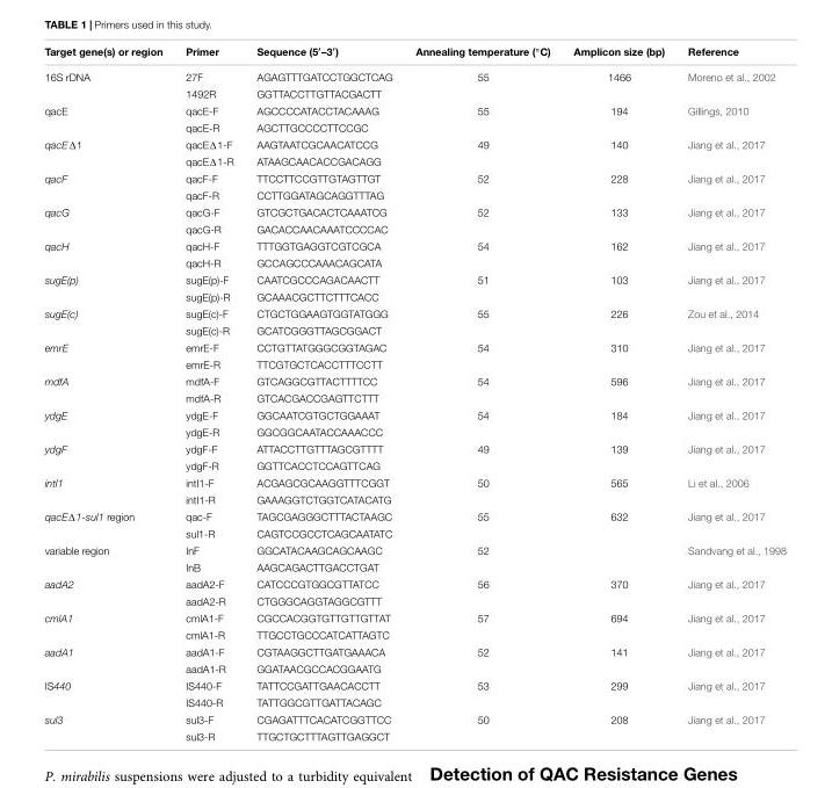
<table><thead><tr><td>Target gene(s) or region</td><td>Primer</td><td>Sequence (5′–3′)</td><td>Annealing temperature (◦C)</td><td>Amplicon size (bp)</td><td>Reference</td></tr></thead><tbody><tr><td rowspan="2">16S rDNA</td><td>27F</td><td>AGAGTTTGATCCTGGCTCAG</td><td>55</td><td>1466</td><td>Moreno et al., 2002</td></tr><tr><td>1492R</td><td>GGTTACCTTGTTACGACTT</td><td></td><td></td><td></td></tr><tr><td rowspan="2">qacE</td><td>qacE-F</td><td>AGCCCCATACCTACAAAG</td><td>55</td><td>194</td><td>Gillings, 2010</td></tr><tr><td>qacE-R</td><td>AGCTTGCCCCTTCCGC</td><td></td><td></td><td></td></tr><tr><td rowspan="2">qacEΔ1</td><td>qacEΔ1-F</td><td>AAGTAATCGCAACATCCG</td><td>49</td><td>140</td><td>Jiang et al., 2017</td></tr><tr><td>qacEΔ1-R</td><td>ATAAGCAACACCGACAGG</td><td></td><td></td><td></td></tr><tr><td rowspan="2">qacF</td><td>qacF-F</td><td>TTCCTTCCGTTGTAGTTGT</td><td>52</td><td>228</td><td>Jiang et al., 2017</td></tr><tr><td>qacF-R</td><td>CCTTGGATAGCAGGTTTAG</td><td></td><td></td><td></td></tr><tr><td rowspan="2">qacG</td><td>qacG-F</td><td>GTCGCTGACACTCAAATCG</td><td>52</td><td>133</td><td>Jiang et al., 2017</td></tr><tr><td>qacG-R</td><td>GACACCAACAAATCCCCAC</td><td></td><td></td><td></td></tr><tr><td rowspan="2">qacH</td><td>qacH-F</td><td>TTTGGTGAGGTCGTCGCA</td><td>54</td><td>162</td><td>Jiang et al., 2017</td></tr><tr><td>qacH-R</td><td>GCCAGCCCAAACAGCATA</td><td></td><td></td><td></td></tr><tr><td rowspan="2">sugE(p)</td><td>sugE(p)-F</td><td>CAATCGCCCAGACAACTT</td><td>51</td><td>103</td><td>Jiang et al., 2017</td></tr><tr><td>sugE(p)-R</td><td>GCAAACGCTTCTTTCACC</td><td></td><td></td><td></td></tr><tr><td rowspan="2">sugE(c)</td><td>sugE(c)-F</td><td>CTGCTGGAAGTGGTATGGG</td><td>55</td><td>226</td><td>Zou et al., 2014</td></tr><tr><td>sugE(c)-R</td><td>GCATCGGGTTAGCGGACT</td><td></td><td></td><td></td></tr><tr><td rowspan="2">emrE</td><td>emrE-F</td><td>CCTGTTATGGGCGGTAGAC</td><td>54</td><td>310</td><td>Jiang et al., 2017</td></tr><tr><td>emrE-R</td><td>TTCGTGCTCACCTTTCCTT</td><td></td><td></td><td></td></tr><tr><td rowspan="2">mdfA</td><td>mdfA-F</td><td>GTCAGGCGTTACTTTTCC</td><td>54</td><td>596</td><td>Jiang et al., 2017</td></tr><tr><td>mdfA-R</td><td>GTCACGACCGAGTTCTTT</td><td></td><td></td><td></td></tr><tr><td rowspan="2">ydgE</td><td>ydgE-F</td><td>GGCAATCGTGCTGGAAAT</td><td>54</td><td>184</td><td>Jiang et al., 2017</td></tr><tr><td>ydgE-R</td><td>GGCGGCAATACCAAACCC</td><td></td><td></td><td></td></tr><tr><td rowspan="2">ydgF</td><td>ydgF-F</td><td>ATTACCTTGTTTAGCGTTTT</td><td>49</td><td>139</td><td>Jiang et al., 2017</td></tr><tr><td>ydgF-R</td><td>GGTTCACCTCCAGTTCAG</td><td></td><td></td><td></td></tr><tr><td rowspan="2">intI1</td><td>intI1-F</td><td>ACGAGCGCAAGGTTTCGGT</td><td>50</td><td>565</td><td>Li et al., 2006</td></tr><tr><td>intI1-R</td><td>GAAAGGTCTGGTCATACATG</td><td></td><td></td><td></td></tr><tr><td rowspan="2">qacEΔ1-sul1 region</td><td>qac-F</td><td>TAGCGAGGGCTTTACTAAGC</td><td>55</td><td>632</td><td>Jiang et al., 2017</td></tr><tr><td>sul1-R</td><td>CAGTCCGCCTCAGCAATATC</td><td></td><td></td><td></td></tr><tr><td rowspan="2">variable region</td><td>InF</td><td>GGCATACAAGCAGCAAGC</td><td>52</td><td></td><td>Sandvang et al., 1998</td></tr><tr><td>InB</td><td>AAGCAGACTTGACCTGAT</td><td></td><td></td><td></td></tr><tr><td rowspan="2">aadA2</td><td>aadA2-F</td><td>CATCCCGTGGCGTTATCC</td><td>56</td><td>370</td><td>Jiang et al., 2017</td></tr><tr><td>aadA2-R</td><td>CTGGGCAGGTAGGCGTTT</td><td></td><td></td><td></td></tr><tr><td rowspan="2">cmlA1</td><td>cmlA1-F</td><td>CGCCACGGTGTTGTTGTTAT</td><td>57</td><td>694</td><td>Jiang et al., 2017</td></tr><tr><td>cmlA1-R</td><td>TTGCCTGCCCATCATTAGTC</td><td></td><td></td><td></td></tr><tr><td rowspan="2">aadA1</td><td>aadA1-F</td><td>CGTAAGGCTTGATGAAACA</td><td>52</td><td>141</td><td>Jiang et al., 2017</td></tr><tr><td>aadA1-R</td><td>GGATAACGCCACGGAATG</td><td></td><td></td><td></td></tr><tr><td rowspan="2">IS440</td><td>IS440-F</td><td>TATTCCGATTGAACACCTT</td><td>53</td><td>299</td><td>Jiang et al., 2017</td></tr><tr><td>IS440-R</td><td>TATTGGCGTTGATTACAGC</td><td></td><td></td><td></td></tr><tr><td rowspan="2">sul3</td><td>sul3-F</td><td>CGAGATTTCACATCGGTTCC</td><td>50</td><td>208</td><td>Jiang et al., 2017</td></tr><tr><td>sul3-R</td><td>TTGCTGCTTTAGTTGAGGCT</td><td></td><td></td><td></td></tr></tbody></table>